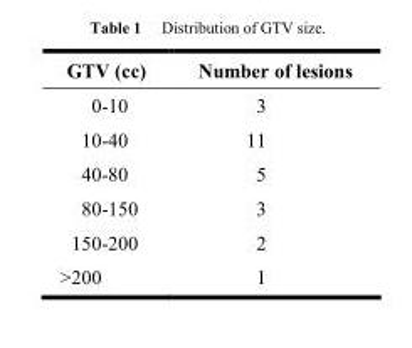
<table><thead><tr><td>GTV (cc)</td><td>Number of lesions</td></tr></thead><tbody><tr><td>0-10</td><td>3</td></tr><tr><td>10-40</td><td>11</td></tr><tr><td>40-80</td><td>5</td></tr><tr><td>80-150</td><td>3</td></tr><tr><td>150-200</td><td>2</td></tr><tr><td>&gt;200</td><td>1</td></tr></tbody></table>